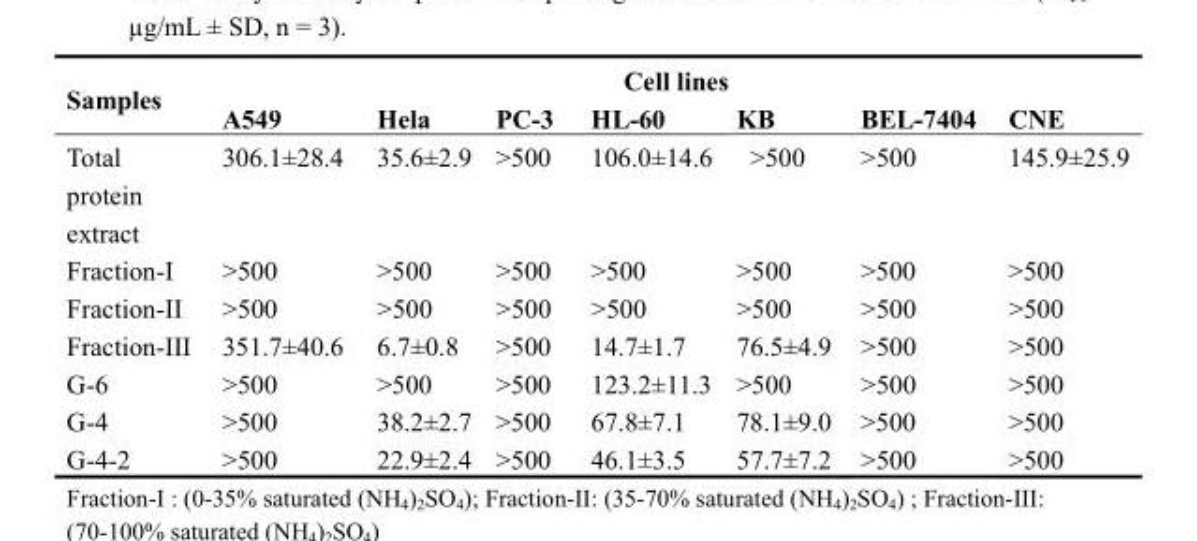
<table><thead><tr><td rowspan="2">Samples</td><td colspan="7">Cell lines</td></tr><tr><td>A549</td><td>Hela</td><td>PC-3</td><td>HL-60</td><td>KB</td><td>BEL-7404</td><td>CNE</td></tr></thead><tbody><tr><td>Total protein extract</td><td>306.1±28.4</td><td>35.6±2.9</td><td>&gt;500</td><td>106.0±14.6</td><td>&gt;500</td><td>&gt;500</td><td>145.9±25.9</td></tr><tr><td>Fraction-I</td><td>&gt;500</td><td>&gt;500</td><td>&gt;500</td><td>&gt;500</td><td>&gt;500</td><td>&gt;500</td><td>&gt;500</td></tr><tr><td>Fraction-II</td><td>&gt;500</td><td>&gt;500</td><td>&gt;500</td><td>&gt;500</td><td>&gt;500</td><td>&gt;500</td><td>&gt;500</td></tr><tr><td>Fraction-III</td><td>351.7±40.6</td><td>6.7±0.8</td><td>&gt;500</td><td>14.7±1.7</td><td>76.5±4.9</td><td>&gt;500</td><td>&gt;500</td></tr><tr><td>G-6</td><td>&gt;500</td><td>&gt;500</td><td>&gt;500</td><td>123.2±11.3</td><td>&gt;500</td><td>&gt;500</td><td>&gt;500</td></tr><tr><td>G-4</td><td>&gt;500</td><td>38.2±2.7</td><td>&gt;500</td><td>67.8±7.1</td><td>78.1±9.0</td><td>&gt;500</td><td>&gt;500</td></tr><tr><td>G-4-2</td><td>&gt;500</td><td>22.9±2.4</td><td>&gt;500</td><td>46.1±3.5</td><td>57.7±7.2</td><td>&gt;500</td><td>&gt;500</td></tr></tbody></table>